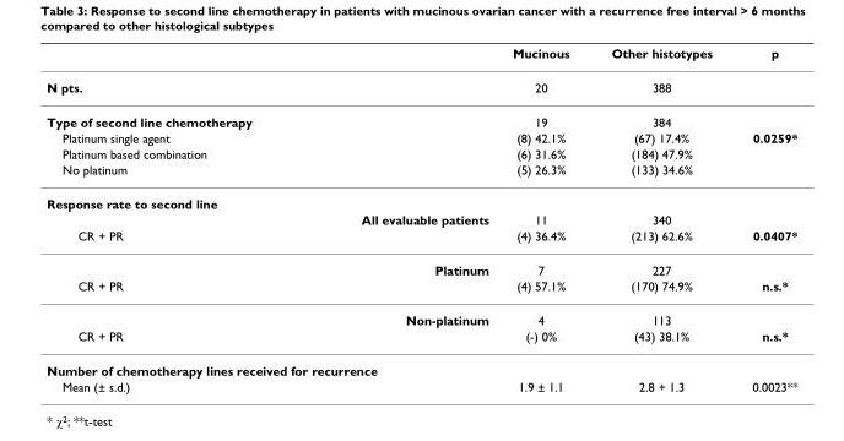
<table><thead><tr><td></td><td>Mucinous</td><td>Other histotypes</td><td>p</td></tr></thead><tbody><tr><td>N pts.</td><td>20</td><td>388</td><td></td></tr><tr><td>Type of second line chemotherapy</td><td>19</td><td>384</td><td></td></tr><tr><td>Platinum single agent</td><td>(8) 42.1%</td><td>(67) 17.4%</td><td>0.0259*</td></tr><tr><td>Platinum based combination</td><td>(6) 31.6%</td><td>(184) 47.9%</td><td></td></tr><tr><td>No platinum</td><td>(5) 26.3%</td><td>(133) 34.6%</td><td></td></tr><tr><td colspan="4">Response rate to second line</td></tr><tr><td>All evaluable patients</td><td>11</td><td>340</td><td></td></tr><tr><td>CR + PR</td><td>(4) 36.4%</td><td>(213) 62.6%</td><td>0.0407*</td></tr><tr><td>Platinum</td><td>7</td><td>227</td><td></td></tr><tr><td>CR + PR</td><td>(4) 57.1%</td><td>(170) 74.9%</td><td>n.s.*</td></tr><tr><td>Non-platinum</td><td>4</td><td>113</td><td></td></tr><tr><td>CR + PR</td><td>(-) 0%</td><td>(43) 38.1%</td><td>n.s.*</td></tr><tr><td colspan="4">Number of chemotherapy lines received for recurrence</td></tr><tr><td>Mean (± s.d.)</td><td>1.9 ± 1.1</td><td>2.8 + 1.3</td><td>0.0023**</td></tr></tbody></table>